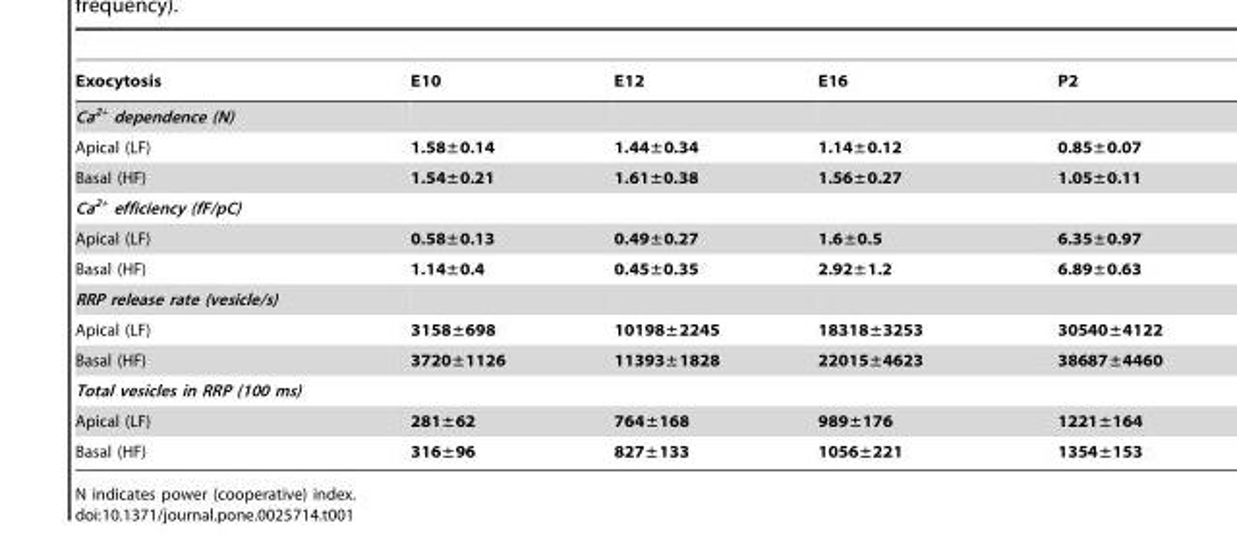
<table><thead><tr><td>Exocytosis</td><td>E10</td><td>E12</td><td>E16</td><td>P2</td></tr></thead><tbody><tr><td colspan="5">Ca<sup>2+</sup> dependence (N)</td></tr><tr><td>Apical (LF)</td><td>1.58±0.14</td><td>1.44±0.34</td><td>1.14±0.12</td><td>0.85±0.07</td></tr><tr><td>Basal (HF)</td><td>1.54±0.21</td><td>1.61±0.38</td><td>1.56±0.27</td><td>1.05±0.11</td></tr><tr><td colspan="5">Ca<sup>2+</sup> efficiency (fF/pC)</td></tr><tr><td>Apical (LF)</td><td>0.58±0.13</td><td>0.49±0.27</td><td>1.6±0.5</td><td>6.35±0.97</td></tr><tr><td>Basal (HF)</td><td>1.14±0.4</td><td>0.45±0.35</td><td>2.92±1.2</td><td>6.89±0.63</td></tr><tr><td colspan="5">RRP release rate (vesicle/s)</td></tr><tr><td>Apical (LF)</td><td>3158±698</td><td>10198±2245</td><td>18318±3253</td><td>30540±4122</td></tr><tr><td>Basal (HF)</td><td>3720±1126</td><td>11393±1828</td><td>22015±4623</td><td>38687±4460</td></tr><tr><td colspan="5">Total vesicles in RRP (100 ms)</td></tr><tr><td>Apical (LF)</td><td>281±62</td><td>764±168</td><td>989±176</td><td>1221±164</td></tr><tr><td>Basal (HF)</td><td>316±96</td><td>827±133</td><td>1056±221</td><td>1354±153</td></tr></tbody></table>